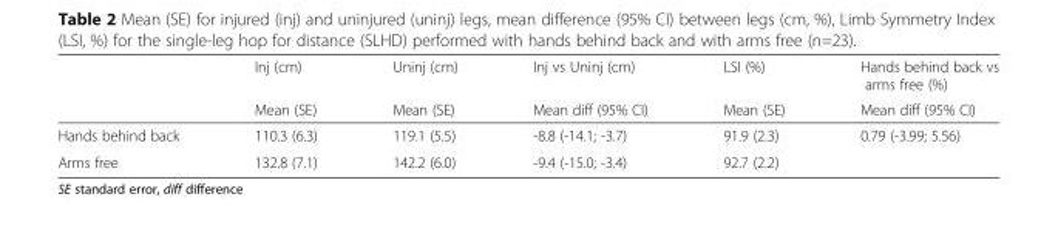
<table><thead><tr><td rowspan="2"></td><td rowspan="2">Inj (cm) Mean (SE)</td><td rowspan="2">Uninj (cm) Mean (SE)</td><td rowspan="2">Inj vs Uninj (cm) Mean diff (95% CI)</td><td rowspan="2">LSI (%) Mean (SE)</td><td rowspan="2">Hands behind back vs arms free (%) Mean diff (95% CI)</td></tr><tr></tr></thead><tbody><tr><td>Hands behind back</td><td>110.3 (6.3)</td><td>119.1 (5.5)</td><td>-8.8 (-14.1; -3.7)</td><td>91.9 (2.3)</td><td>0.79 (-3.99; 5.56)</td></tr><tr><td>Arms free</td><td>132.8 (7.1)</td><td>142.2 (6.0)</td><td>-9.4 (-15.0; -3.4)</td><td>92.7 (2.2)</td><td></td></tr></tbody></table>